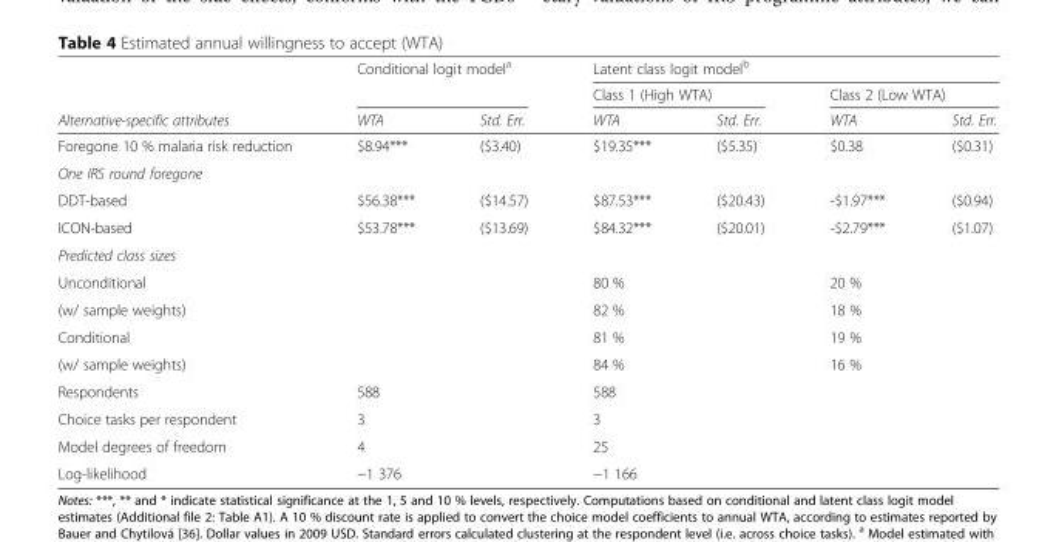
<table><thead><tr><td rowspan="3">Alternative-specific attributes</td><td rowspan="2" colspan="2">Conditional logit model<sup>a</sup></td><td colspan="4">Latent class logit model<sup>b</sup></td></tr><tr><td colspan="2">Class 1 (High WTA)</td><td colspan="2">Class 2 (Low WTA)</td></tr><tr><td>WTA</td><td>Std. Err.</td><td>WTA</td><td>Std. Err.</td><td>WTA</td><td>Std. Err.</td></tr></thead><tbody><tr><td>Foregone 10 % malaria risk reduction</td><td>$8.94***</td><td>($3.40)</td><td>$19.35***</td><td>($5.35)</td><td>$0.38</td><td>($0.31)</td></tr><tr><td colspan="7">One IRS round foregone</td></tr><tr><td>DDT-based</td><td>$56.38***</td><td>($14.57)</td><td>$87.53***</td><td>($20.43)</td><td>-$1.97***</td><td>($0.94)</td></tr><tr><td>ICON-based</td><td>$53.78***</td><td>($13.69)</td><td>$84.32***</td><td>($20.01)</td><td>-$2.79***</td><td>($1.07)</td></tr><tr><td colspan="7">Predicted class sizes</td></tr><tr><td>Unconditional</td><td colspan="2"></td><td colspan="2">80 %</td><td colspan="2">20 %</td></tr><tr><td>(w/ sample weights)</td><td colspan="2"></td><td colspan="2">82 %</td><td colspan="2">18 %</td></tr><tr><td>Conditional</td><td colspan="2"></td><td colspan="2">81 %</td><td colspan="2">19 %</td></tr><tr><td>(w/ sample weights)</td><td colspan="2"></td><td colspan="2">84 %</td><td colspan="2">16 %</td></tr><tr><td>Respondents</td><td colspan="2">588</td><td colspan="4">588</td></tr><tr><td>Choice tasks per respondent</td><td colspan="2">3</td><td colspan="4">3</td></tr><tr><td>Model degrees of freedom</td><td colspan="2">4</td><td colspan="4">25</td></tr><tr><td>Log-likelihood</td><td colspan="2">−1 376</td><td colspan="4">−1 166</td></tr></tbody></table>